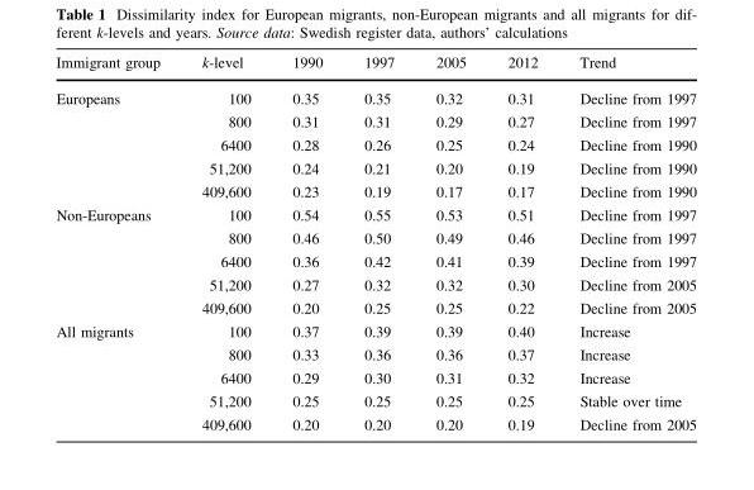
<table><thead><tr><td>Immigrant group</td><td>k-level</td><td>1990</td><td>1997</td><td>2005</td><td>2012</td><td>Trend</td></tr></thead><tbody><tr><td rowspan="5">Europeans</td><td>100</td><td>0.35</td><td>0.35</td><td>0.32</td><td>0.31</td><td>Decline from 1997</td></tr><tr><td>800</td><td>0.31</td><td>0.31</td><td>0.29</td><td>0.27</td><td>Decline from 1997</td></tr><tr><td>6400</td><td>0.28</td><td>0.26</td><td>0.25</td><td>0.24</td><td>Decline from 1990</td></tr><tr><td>51,200</td><td>0.24</td><td>0.21</td><td>0.20</td><td>0.19</td><td>Decline from 1990</td></tr><tr><td>409,600</td><td>0.23</td><td>0.19</td><td>0.17</td><td>0.17</td><td>Decline from 1990</td></tr><tr><td rowspan="5">Non-Europeans</td><td>100</td><td>0.54</td><td>0.55</td><td>0.53</td><td>0.51</td><td>Decline from 1997</td></tr><tr><td>800</td><td>0.46</td><td>0.50</td><td>0.49</td><td>0.46</td><td>Decline from 1997</td></tr><tr><td>6400</td><td>0.36</td><td>0.42</td><td>0.41</td><td>0.39</td><td>Decline from 1997</td></tr><tr><td>51,200</td><td>0.27</td><td>0.32</td><td>0.32</td><td>0.30</td><td>Decline from 2005</td></tr><tr><td>409,600</td><td>0.20</td><td>0.25</td><td>0.25</td><td>0.22</td><td>Decline from 2005</td></tr><tr><td rowspan="5">All migrants</td><td>100</td><td>0.37</td><td>0.39</td><td>0.39</td><td>0.40</td><td>Increase</td></tr><tr><td>800</td><td>0.33</td><td>0.36</td><td>0.36</td><td>0.37</td><td>Increase</td></tr><tr><td>6400</td><td>0.29</td><td>0.30</td><td>0.31</td><td>0.32</td><td>Increase</td></tr><tr><td>51,200</td><td>0.25</td><td>0.25</td><td>0.25</td><td>0.25</td><td>Stable over time</td></tr><tr><td>409,600</td><td>0.20</td><td>0.20</td><td>0.20</td><td>0.19</td><td>Decline from 2005</td></tr></tbody></table>